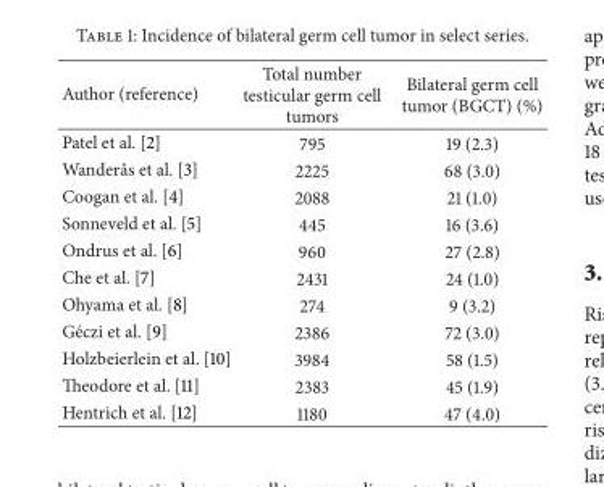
<table><thead><tr><td>Author (reference)</td><td>Total number testicular germ cell tumors</td><td>Bilateral germ cell tumor (BGCT) (%)</td></tr></thead><tbody><tr><td>Patel et al. [2]</td><td>795</td><td>19 (2.3)</td></tr><tr><td>Wander˚as et al. [3]</td><td>2225</td><td>68 (3.0)</td></tr><tr><td>Coogan et al. [4]</td><td>2088</td><td>21 (1.0)</td></tr><tr><td>Sonneveld et al. [5]</td><td>445</td><td>16 (3.6)</td></tr><tr><td>Ondrus et al. [6]</td><td>960</td><td>27 (2.8)</td></tr><tr><td>Che et al. [7]</td><td>2431</td><td>24 (1.0)</td></tr><tr><td>Ohyama et al. [8]</td><td>274</td><td>9 (3.2)</td></tr><tr><td>G´eczi et al. [9]</td><td>2386</td><td>72 (3.0)</td></tr><tr><td>Holzbeierlein et al. [10]</td><td>3984</td><td>58 (1.5)</td></tr><tr><td>Theodore et al. [11]</td><td>2383</td><td>45 (1.9)</td></tr><tr><td>Hentrich et al. [12]</td><td>1180</td><td>47 (4.0)</td></tr></tbody></table>